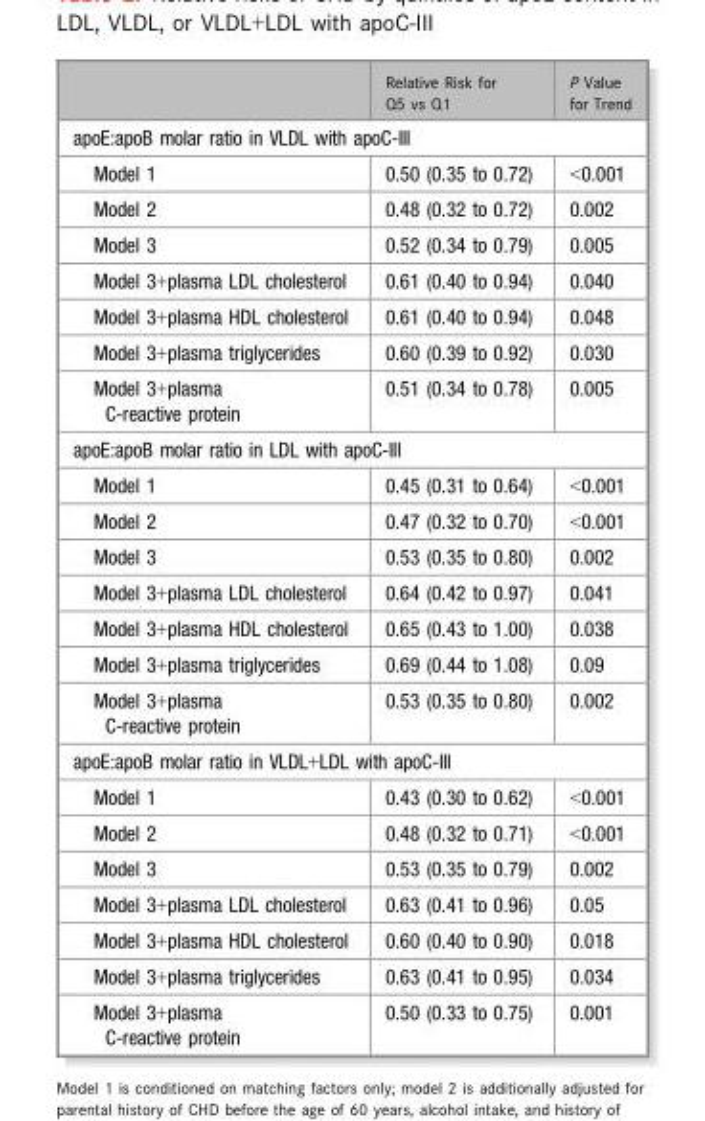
<table><thead><tr><td></td><td>Relative Risk for Q5 vs Q1</td><td>P Value for Trend</td></tr></thead><tbody><tr><td colspan="3">apoE:apoB molar ratio in VLDL with apoC-III</td></tr><tr><td>Model 1</td><td>0.50 (0.35 to 0.72)</td><td>&lt;0.001</td></tr><tr><td>Model 2</td><td>0.48 (0.32 to 0.72)</td><td>0.002</td></tr><tr><td>Model 3</td><td>0.52 (0.34 to 0.79)</td><td>0.005</td></tr><tr><td>Model 3+plasma LDL cholesterol</td><td>0.61 (0.40 to 0.94)</td><td>0.040</td></tr><tr><td>Model 3+plasma HDL cholesterol</td><td>0.61 (0.40 to 0.94)</td><td>0.048</td></tr><tr><td>Model 3+plasma triglycerides</td><td>0.60 (0.39 to 0.92)</td><td>0.030</td></tr><tr><td>Model 3+plasma C-reactive protein</td><td>0.51 (0.34 to 0.78)</td><td>0.005</td></tr><tr><td colspan="3">apoE:apoB molar ratio in LDL with apoC-III</td></tr><tr><td>Model 1</td><td>0.45 (0.31 to 0.64)</td><td>&lt;0.001</td></tr><tr><td>Model 2</td><td>0.47 (0.32 to 0.70)</td><td>&lt;0.001</td></tr><tr><td>Model 3</td><td>0.53 (0.35 to 0.80)</td><td>0.002</td></tr><tr><td>Model 3+plasma LDL cholesterol</td><td>0.64 (0.42 to 0.97)</td><td>0.041</td></tr><tr><td>Model 3+plasma HDL cholesterol</td><td>0.65 (0.43 to 1.00)</td><td>0.038</td></tr><tr><td>Model 3+plasma triglycerides</td><td>0.69 (0.44 to 1.08)</td><td>0.09</td></tr><tr><td>Model 3+plasma C-reactive protein</td><td>0.53 (0.35 to 0.80)</td><td>0.002</td></tr><tr><td colspan="3">apoE:apoB molar ratio in VLDL+LDL with apoC-III</td></tr><tr><td>Model 1</td><td>0.43 (0.30 to 0.62)</td><td>&lt;0.001</td></tr><tr><td>Model 2</td><td>0.48 (0.32 to 0.71)</td><td>&lt;0.001</td></tr><tr><td>Model 3</td><td>0.53 (0.35 to 0.79)</td><td>0.002</td></tr><tr><td>Model 3+plasma LDL cholesterol</td><td>0.63 (0.41 to 0.96)</td><td>0.05</td></tr><tr><td>Model 3+plasma HDL cholesterol</td><td>0.60 (0.40 to 0.90)</td><td>0.018</td></tr><tr><td>Model 3+plasma triglycerides</td><td>0.63 (0.41 to 0.95)</td><td>0.034</td></tr><tr><td>Model 3+plasma C-reactive protein</td><td>0.50 (0.33 to 0.75)</td><td>0.001</td></tr></tbody></table>